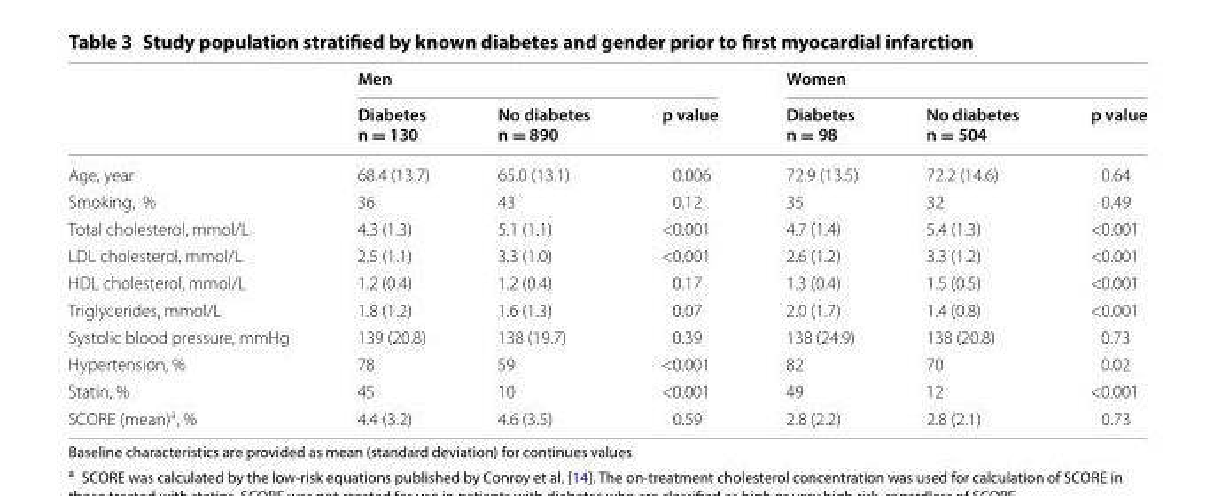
<table><thead><tr><td rowspan="2"></td><td colspan="3">Men</td><td colspan="3">Women</td></tr><tr><td>Diabetes n = 130</td><td>No diabetes n = 890</td><td>p value</td><td>Diabetes n = 98</td><td>No diabetes n = 504</td><td>p value</td></tr></thead><tbody><tr><td>Age, year</td><td>68.4 (13.7)</td><td>65.0 (13.1)</td><td>0.006</td><td>72.9 (13.5)</td><td>72.2 (14.6)</td><td>0.64</td></tr><tr><td>Smoking, %</td><td>36</td><td>43</td><td>0.12</td><td>35</td><td>32</td><td>0.49</td></tr><tr><td>Total cholesterol, mmol/L</td><td>4.3 (1.3)</td><td>5.1 (1.1)</td><td>&lt;0.001</td><td>4.7 (1.4)</td><td>5.4 (1.3)</td><td>&lt;0.001</td></tr><tr><td>LDL cholesterol, mmol/L</td><td>2.5 (1.1)</td><td>3.3 (1.0)</td><td>&lt;0.001</td><td>2.6 (1.2)</td><td>3.3 (1.2)</td><td>&lt;0.001</td></tr><tr><td>HDL cholesterol, mmol/L</td><td>1.2 (0.4)</td><td>1.2 (0.4)</td><td>0.17</td><td>1.3 (0.4)</td><td>1.5 (0.5)</td><td>&lt;0.001</td></tr><tr><td>Triglycerides, mmol/L</td><td>1.8 (1.2)</td><td>1.6 (1.3)</td><td>0.07</td><td>2.0 (1.7)</td><td>1.4 (0.8)</td><td>&lt;0.001</td></tr><tr><td>Systolic blood pressure, mmHg</td><td>139 (20.8)</td><td>138 (19.7)</td><td>0.39</td><td>138 (24.9)</td><td>138 (20.8)</td><td>0.73</td></tr><tr><td>Hypertension, %</td><td>78</td><td>59</td><td>&lt;0.001</td><td>82</td><td>70</td><td>0.02</td></tr><tr><td>Statin, %</td><td>45</td><td>10</td><td>&lt;0.001</td><td>49</td><td>12</td><td>&lt;0.001</td></tr><tr><td>SCORE (mean)<sup>a</sup>, %</td><td>4.4 (3.2)</td><td>4.6 (3.5)</td><td>0.59</td><td>2.8 (2.2)</td><td>2.8 (2.1)</td><td>0.73</td></tr></tbody></table>